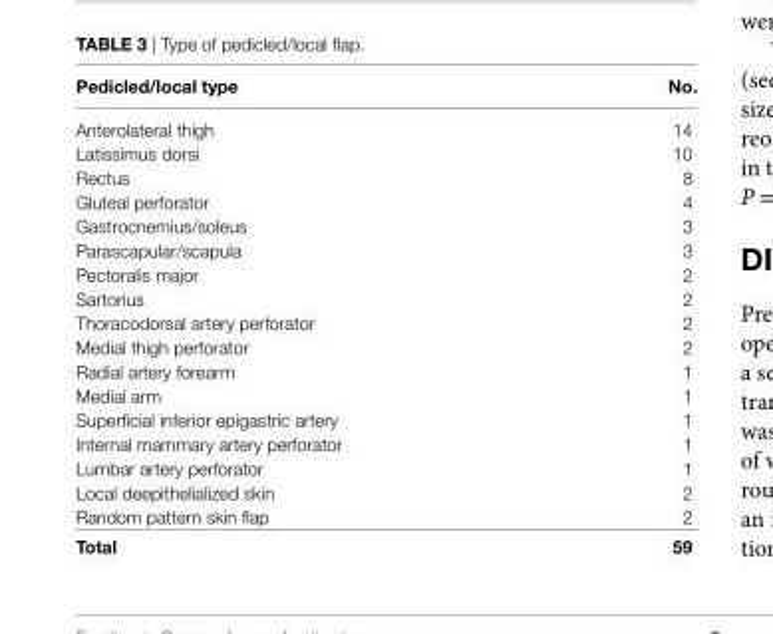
<table><thead><tr><td>Pedicled/local type</td><td>no.</td></tr></thead><tbody><tr><td>Anterolateral thigh</td><td>14</td></tr><tr><td>Latissimus dorsi</td><td>10</td></tr><tr><td>Rectus</td><td>8</td></tr><tr><td>Gluteal perforator</td><td>4</td></tr><tr><td>Gastrocnemius/soleus</td><td>3</td></tr><tr><td>Parascapular/scapula</td><td>3</td></tr><tr><td>Pectoralis major</td><td>2</td></tr><tr><td>Sartorius</td><td>2</td></tr><tr><td>Thoracodorsal artery perforator</td><td>2</td></tr><tr><td>Medial thigh perforator</td><td>2</td></tr><tr><td>Radial artery forearm</td><td>1</td></tr><tr><td>Medial arm</td><td>1</td></tr><tr><td>Superficial inferior epigastric artery</td><td>1</td></tr><tr><td>Internal mammary artery perforator</td><td>1</td></tr><tr><td>Lumbar artery perforator</td><td>1</td></tr><tr><td>Local deepithelialized skin</td><td>2</td></tr><tr><td>Random pattern skin flap</td><td>2</td></tr><tr><td>Total</td><td>59</td></tr></tbody></table>